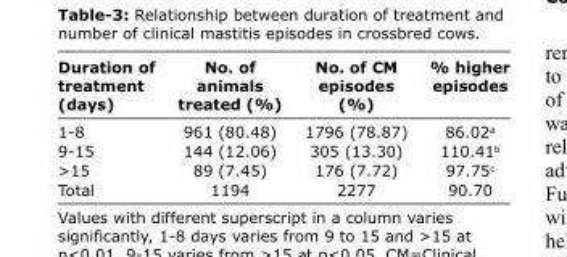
<table><thead><tr><td>Duration of treatment (days)</td><td>No. of animals treated (%)</td><td>No. of CM episodes (%)</td><td>% higher episodes</td></tr></thead><tbody><tr><td>1-8</td><td>961 (80.48)</td><td>1796 (78.87)</td><td>86.02<sup>a</sup></td></tr><tr><td>9-15</td><td>144 (12.06)</td><td>305 (13.30)</td><td>110.41<sup>b</sup></td></tr><tr><td>&gt;15</td><td>89 (7.45)</td><td>176 (7.72)</td><td>97.75<sup>c</sup></td></tr><tr><td>Total</td><td>1194</td><td>2277</td><td>90.70</td></tr></tbody></table>